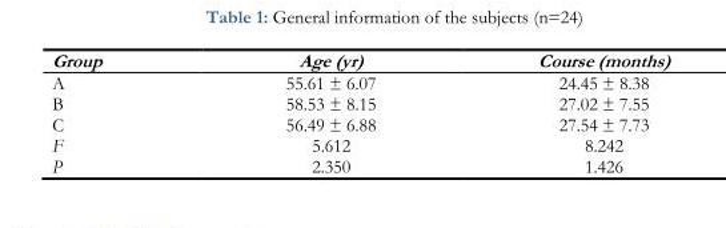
<table><thead><tr><td>Group</td><td>Age (yr)</td><td>Course (months)</td></tr></thead><tbody><tr><td>A</td><td>55.61 ± 6.07</td><td>24.45 ± 8.38</td></tr><tr><td>B</td><td>58.53 ± 8.15</td><td>27.02 ± 7.55</td></tr><tr><td>C</td><td>56.49 ± 6.88</td><td>27.54 ± 7.73</td></tr><tr><td>F</td><td>5.612</td><td>8.242</td></tr><tr><td>P</td><td>2.350</td><td>1.426</td></tr></tbody></table>